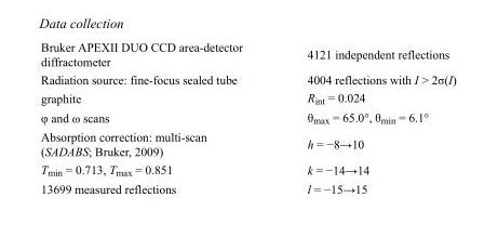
<table><tbody><tr><td>Bruker APEXII DUO CCD area-detector diffractometer</td><td>4121 independent reflections</td></tr><tr><td>Radiation source: fine-focus sealed tube</td><td>4004 reflections with I &gt; 2σ(I)</td></tr><tr><td>graphite</td><td>R<sub>int</sub> = 0.024</td></tr><tr><td>φ and ω scans</td><td>θ<sub>max</sub> = 65.0°, θ<sub>min</sub> = 6.1°</td></tr><tr><td>Absorption correction: multi-scan (SADABS; Bruker, 2009)</td><td>h = −8→10</td></tr><tr><td>T<sub>min</sub> = 0.713, T<sub>max</sub> = 0.851</td><td>k = −14→14</td></tr><tr><td>13699 measured reflections</td><td>l = −15→15</td></tr></tbody></table>